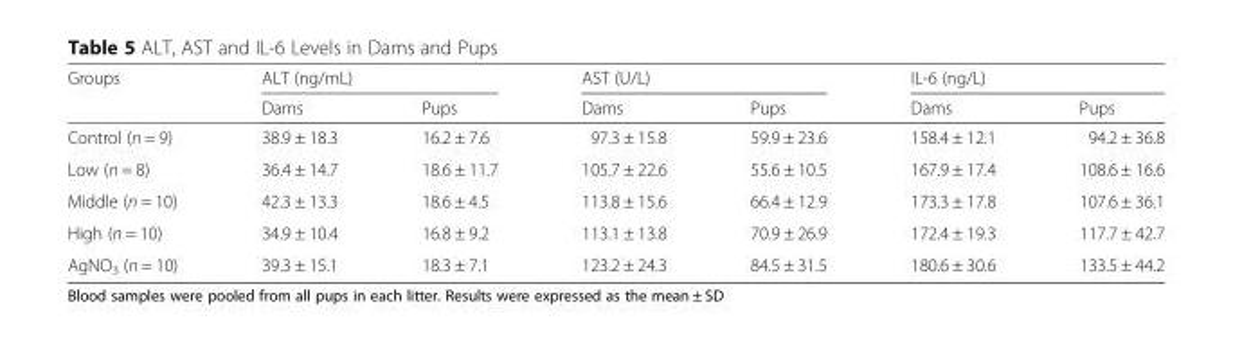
<table><thead><tr><td rowspan="2">Groups</td><td colspan="2">ALT (ng/mL)</td><td colspan="2">AST (U/L)</td><td colspan="2">IL-6 (ng/L)</td></tr><tr><td>Dams</td><td>Pups</td><td>Dams</td><td>Pups</td><td>Dams</td><td>Pups</td></tr></thead><tbody><tr><td>Control (n = 9)</td><td>38.9 ± 18.3</td><td>16.2 ± 7.6</td><td>97.3 ± 15.8</td><td>59.9 ± 23.6</td><td>158.4 ± 12.1</td><td>94.2 ± 36.8</td></tr><tr><td>Low (n = 8)</td><td>36.4 ± 14.7</td><td>18.6 ± 11.7</td><td>105.7 ± 22.6</td><td>55.6 ± 10.5</td><td>167.9 ± 17.4</td><td>108.6 ± 16.6</td></tr><tr><td>Middle (n = 10)</td><td>42.3 ± 13.3</td><td>18.6 ± 4.5</td><td>113.8 ± 15.6</td><td>66.4 ± 12.9</td><td>173.3 ± 17.8</td><td>107.6 ± 36.1</td></tr><tr><td>High (n = 10)</td><td>34.9 ± 10.4</td><td>16.8 ± 9.2</td><td>113.1 ± 13.8</td><td>70.9 ± 26.9</td><td>172.4 ± 19.3</td><td>117.7 ± 42.7</td></tr><tr><td>AgNO<sub>3</sub> (n = 10)</td><td>39.3 ± 15.1</td><td>18.3 ± 7.1</td><td>123.2 ± 24.3</td><td>84.5 ± 31.5</td><td>180.6 ± 30.6</td><td>133.5 ± 44.2</td></tr></tbody></table>